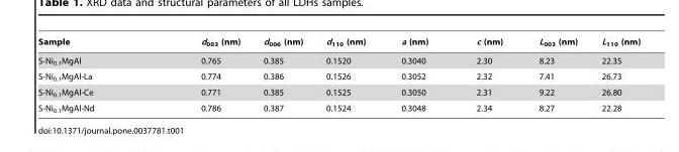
<table><thead><tr><td>Sample</td><td>d<sub>003</sub> (nm)</td><td>d<sub>006</sub> (nm)</td><td>d<sub>110</sub> (nm)</td><td>a (nm)</td><td>c (nm)</td><td>L<sub>003</sub> (nm)</td><td>L<sub>110</sub> (nm)</td></tr></thead><tbody><tr><td>S-Ni<sub>0.1</sub>MgAl</td><td>0.765</td><td>0.385</td><td>0.1520</td><td>0.3040</td><td>2.30</td><td>8.23</td><td>22.35</td></tr><tr><td>S-Ni<sub>0.1</sub>MgAl-La</td><td>0.774</td><td>0.386</td><td>0.1526</td><td>0.3052</td><td>2.32</td><td>7.41</td><td>26.73</td></tr><tr><td>S-Ni<sub>0.1</sub>MgAl-Ce</td><td>0.771</td><td>0.385</td><td>0.1525</td><td>0.3050</td><td>2.31</td><td>9.22</td><td>26.80</td></tr><tr><td>S-Ni<sub>0.1</sub>MgAl-Nd</td><td>0.786</td><td>0.387</td><td>0.1524</td><td>0.3048</td><td>2.34</td><td>8.27</td><td>22.28</td></tr></tbody></table>